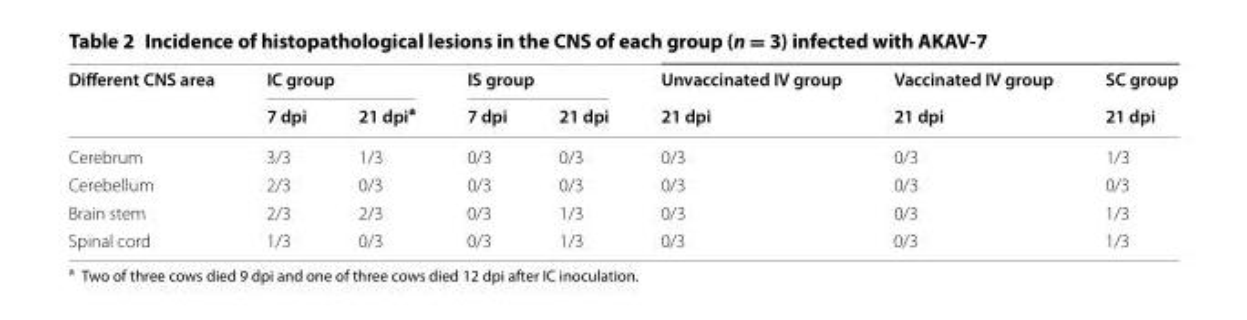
<table><thead><tr><td rowspan="2">Different CNS area</td><td colspan="2">IC group</td><td colspan="2">IS group</td><td rowspan="2">Unvaccinated IV group 21 dpi</td><td rowspan="2">Vaccinated IV group 21 dpi</td><td rowspan="2">SC group 21 dpi</td></tr><tr><td>7 dpi</td><td>21 dpi<sup>a</sup></td><td>7 dpi</td><td>21 dpi</td></tr></thead><tbody><tr><td>Cerebrum</td><td>3/3</td><td>1/3</td><td>0/3</td><td>0/3</td><td>0/3</td><td>0/3</td><td>1/3</td></tr><tr><td>Cerebellum</td><td>2/3</td><td>0/3</td><td>0/3</td><td>0/3</td><td>0/3</td><td>0/3</td><td>0/3</td></tr><tr><td>Brain stem</td><td>2/3</td><td>2/3</td><td>0/3</td><td>1/3</td><td>0/3</td><td>0/3</td><td>1/3</td></tr><tr><td>Spinal cord</td><td>1/3</td><td>0/3</td><td>0/3</td><td>1/3</td><td>0/3</td><td>0/3</td><td>1/3</td></tr></tbody></table>